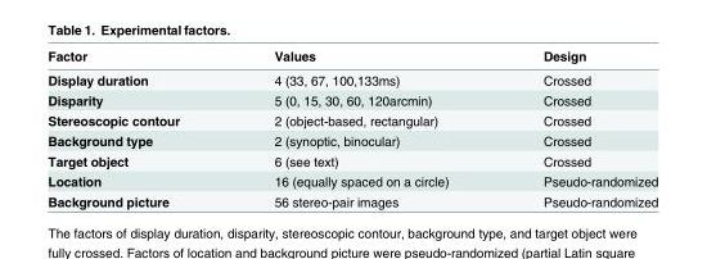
<table><thead><tr><td>Factor</td><td>Values</td><td>Design</td></tr></thead><tbody><tr><td>Display duration</td><td>4 (33, 67, 100,133ms)</td><td>Crossed</td></tr><tr><td>Disparity</td><td>5 (0, 15, 30, 60, 120arcmin)</td><td>Crossed</td></tr><tr><td>Stereoscopic contour</td><td>2 (object-based, rectangular)</td><td>Crossed</td></tr><tr><td>Background type</td><td>2 (synoptic, binocular)</td><td>Crossed</td></tr><tr><td>Target object</td><td>6 (see text)</td><td>Crossed</td></tr><tr><td>Location</td><td>16 (equally spaced on a circle)</td><td>Pseudo-randomized</td></tr><tr><td>Background picture</td><td>56 stereo-pair images</td><td>Pseudo-randomized</td></tr></tbody></table>